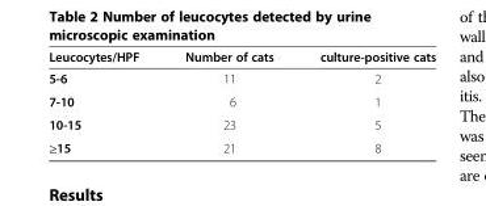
<table><thead><tr><td>Leucocytes/HPF</td><td>Number of cats</td><td>culture-positive cats</td></tr></thead><tbody><tr><td>5-6</td><td>11</td><td>2</td></tr><tr><td>7-10</td><td>6</td><td>1</td></tr><tr><td>10-15</td><td>23</td><td>5</td></tr><tr><td>≥15</td><td>21</td><td>8</td></tr></tbody></table>